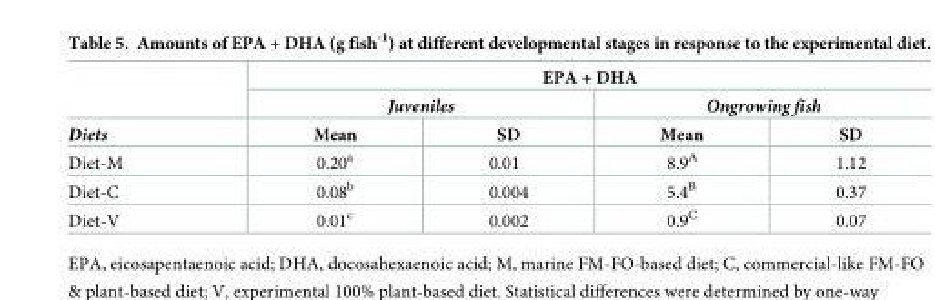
<table><thead><tr><td rowspan="3">Diets</td><td colspan="4">EPA + DHA</td></tr><tr><td colspan="2">Juveniles</td><td colspan="2">Ongrowing fish</td></tr><tr><td>Mean</td><td>SD</td><td>Mean</td><td>SD</td></tr></thead><tbody><tr><td>Diet-M</td><td>0.20<sup>a</sup></td><td>0.01</td><td>8.9<sup>A</sup></td><td>1.12</td></tr><tr><td>Diet-C</td><td>0.08<sup>b</sup></td><td>0.004</td><td>5.4<sup>B</sup></td><td>0.37</td></tr><tr><td>Diet-V</td><td>0.01<sup>c</sup></td><td>0.002</td><td>0.9<sup>C</sup></td><td>0.07</td></tr></tbody></table>